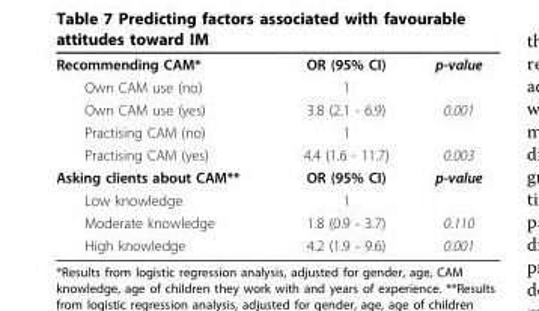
<table><tbody><tr><td>Recommending CAM*</td><td>OR (95% CI)</td><td>p-value</td></tr><tr><td>Own CAM use (no)</td><td>1</td><td></td></tr><tr><td>Own CAM use (yes)</td><td>3.8 (2.1 - 6.9)</td><td>0.001</td></tr><tr><td>Practising CAM (no)</td><td>1</td><td></td></tr><tr><td>Practising CAM (yes)</td><td>4.4 (1.6 - 11.7)</td><td>0.003</td></tr><tr><td>Asking clients about CAM**</td><td>OR (95% CI)</td><td>p-value</td></tr><tr><td>Low knowledge</td><td>1</td><td></td></tr><tr><td>Moderate knowledge</td><td>1.8 (0.9 - 3.7)</td><td>0.110</td></tr><tr><td>High knowledge</td><td>4.2 (1.9 - 9.6)</td><td>0.001</td></tr></tbody></table>